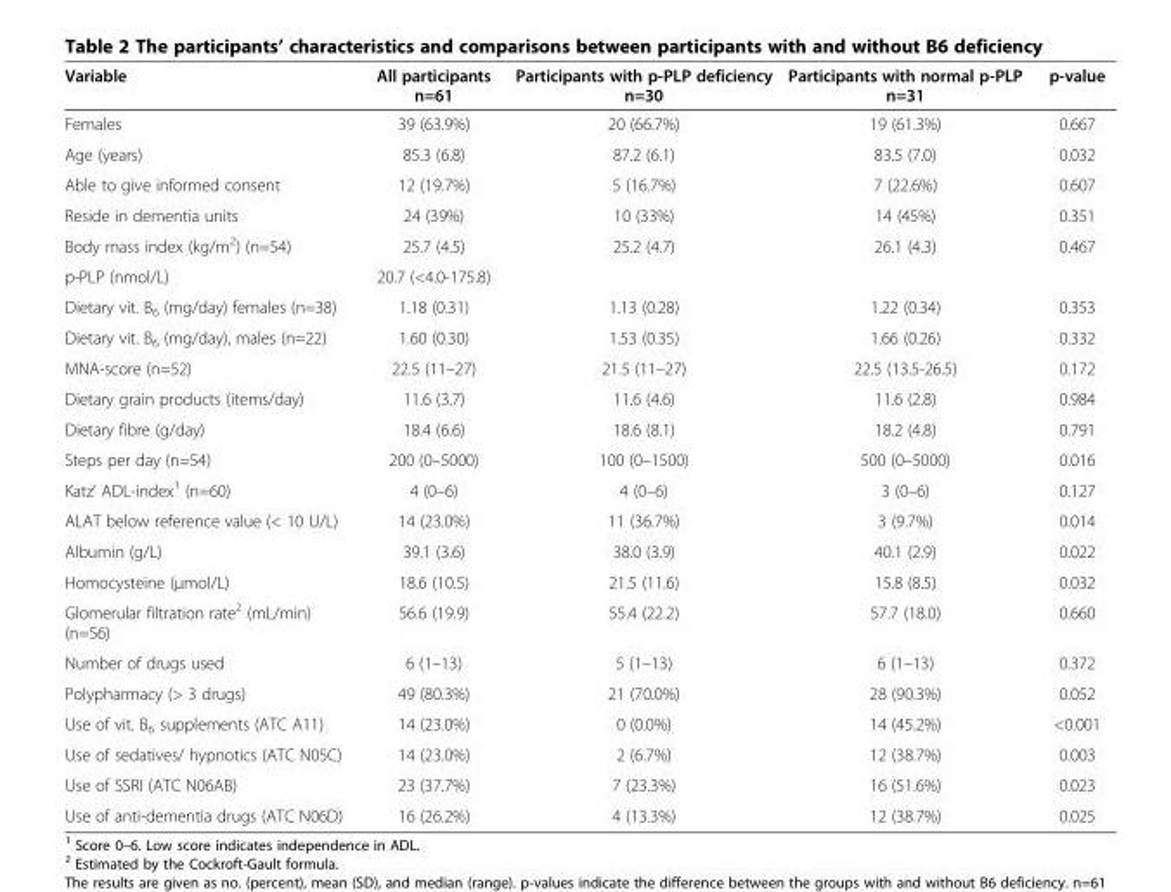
<table><thead><tr><td>Variable</td><td>All participants n=61</td><td>Participants with p-PLP deficiency n=30</td><td>Participants with normal p-PLP n=31</td><td>p-value</td></tr></thead><tbody><tr><td>Females</td><td>39 (63.9%)</td><td>20 (66.7%)</td><td>19 (61.3%)</td><td>0.667</td></tr><tr><td>Age (years)</td><td>85.3 (6.8)</td><td>87.2 (6.1)</td><td>83.5 (7.0)</td><td>0.032</td></tr><tr><td>Able to give informed consent</td><td>12 (19.7%)</td><td>5 (16.7%)</td><td>7 (22.6%)</td><td>0.607</td></tr><tr><td>Reside in dementia units</td><td>24 (39%)</td><td>10 (33%)</td><td>14 (45%)</td><td>0.351</td></tr><tr><td>Body mass index (kg/m<sup>2</sup>) (n=54)</td><td>25.7 (4.5)</td><td>25.2 (4.7)</td><td>26.1 (4.3)</td><td>0.467</td></tr><tr><td>p-PLP (nmol/L)</td><td>20.7 (&lt;4.0-175.8)</td><td></td><td></td><td></td></tr><tr><td>Dietary vit. B<sub>6</sub> (mg/day) females (n=38)</td><td>1.18 (0.31)</td><td>1.13 (0.28)</td><td>1.22 (0.34)</td><td>0.353</td></tr><tr><td>Dietary vit. B<sub>6</sub> (mg/day), males (n=22)</td><td>1.60 (0.30)</td><td>1.53 (0.35)</td><td>1.66 (0.26)</td><td>0.332</td></tr><tr><td>MNA-score (n=52)</td><td>22.5 (11–27)</td><td>21.5 (11–27)</td><td>22.5 (13.5-26.5)</td><td>0.172</td></tr><tr><td>Dietary grain products (items/day)</td><td>11.6 (3.7)</td><td>11.6 (4.6)</td><td>11.6 (2.8)</td><td>0.984</td></tr><tr><td>Dietary fibre (g/day)</td><td>18.4 (6.6)</td><td>18.6 (8.1)</td><td>18.2 (4.8)</td><td>0.791</td></tr><tr><td>Steps per day (n=54)</td><td>200 (0–5000)</td><td>100 (0–1500)</td><td>500 (0–5000)</td><td>0.016</td></tr><tr><td>Katz’ ADL-index<sup>1</sup> (n=60)</td><td>4 (0–6)</td><td>4 (0–6)</td><td>3 (0–6)</td><td>0.127</td></tr><tr><td>ALAT below reference value (&lt; 10 U/L)</td><td>14 (23.0%)</td><td>11 (36.7%)</td><td>3 (9.7%)</td><td>0.014</td></tr><tr><td>Albumin (g/L)</td><td>39.1 (3.6)</td><td>38.0 (3.9)</td><td>40.1 (2.9)</td><td>0.022</td></tr><tr><td>Homocysteine (μmol/L)</td><td>18.6 (10.5)</td><td>21.5 (11.6)</td><td>15.8 (8.5)</td><td>0.032</td></tr><tr><td>Glomerular filtration rate<sup>2</sup> (mL/min) (n=56)</td><td>56.6 (19.9)</td><td>55.4 (22.2)</td><td>57.7 (18.0)</td><td>0.660</td></tr><tr><td>Number of drugs used</td><td>6 (1–13)</td><td>5 (1–13)</td><td>6 (1–13)</td><td>0.372</td></tr><tr><td>Polypharmacy (&gt; 3 drugs)</td><td>49 (80.3%)</td><td>21 (70.0%)</td><td>28 (90.3%)</td><td>0.052</td></tr><tr><td>Use of vit. B<sub>6</sub> supplements (ATC A11)</td><td>14 (23.0%)</td><td>0 (0.0%)</td><td>14 (45.2%)</td><td>&lt;0.001</td></tr><tr><td>Use of sedatives/ hypnotics (ATC N05C)</td><td>14 (23.0%)</td><td>2 (6.7%)</td><td>12 (38.7%)</td><td>0.003</td></tr><tr><td>Use of SSRI (ATC N06AB)</td><td>23 (37.7%)</td><td>7 (23.3%)</td><td>16 (51.6%)</td><td>0.023</td></tr><tr><td>Use of anti-dementia drugs (ATC N06D)</td><td>16 (26.2%)</td><td>4 (13.3%)</td><td>12 (38.7%)</td><td>0.025</td></tr></tbody></table>